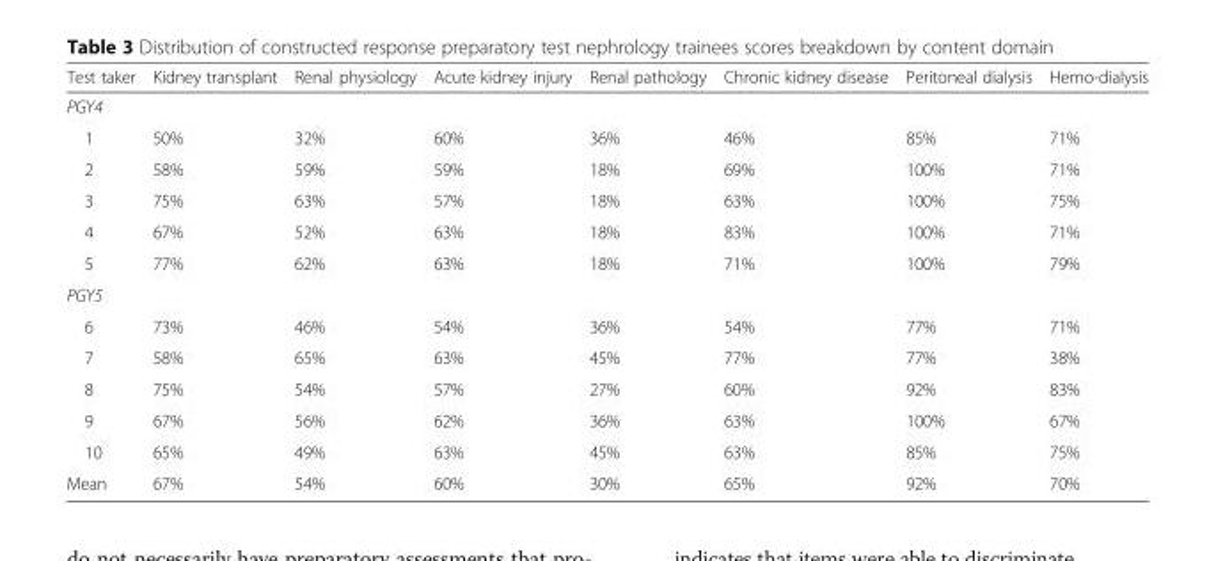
<table><thead><tr><td>Test taker</td><td>Kidney transplant</td><td>Renal physiology</td><td>Acute kidney injury</td><td>Renal pathology</td><td>Chronic kidney disease</td><td>Peritoneal dialysis</td><td>Hemo-dialysis</td></tr></thead><tbody><tr><td colspan="8">PGY4</td></tr><tr><td>1</td><td>50%</td><td>32%</td><td>60%</td><td>36%</td><td>46%</td><td>85%</td><td>71%</td></tr><tr><td>2</td><td>58%</td><td>59%</td><td>59%</td><td>18%</td><td>69%</td><td>100%</td><td>71%</td></tr><tr><td>3</td><td>75%</td><td>63%</td><td>57%</td><td>18%</td><td>63%</td><td>100%</td><td>75%</td></tr><tr><td>4</td><td>67%</td><td>52%</td><td>63%</td><td>18%</td><td>83%</td><td>100%</td><td>71%</td></tr><tr><td>5</td><td>77%</td><td>62%</td><td>63%</td><td>18%</td><td>71%</td><td>100%</td><td>79%</td></tr><tr><td colspan="8">PGY5</td></tr><tr><td>6</td><td>73%</td><td>46%</td><td>54%</td><td>36%</td><td>54%</td><td>77%</td><td>71%</td></tr><tr><td>7</td><td>58%</td><td>65%</td><td>63%</td><td>45%</td><td>77%</td><td>77%</td><td>38%</td></tr><tr><td>8</td><td>75%</td><td>54%</td><td>57%</td><td>27%</td><td>60%</td><td>92%</td><td>83%</td></tr><tr><td>9</td><td>67%</td><td>56%</td><td>62%</td><td>36%</td><td>63%</td><td>100%</td><td>67%</td></tr><tr><td>10</td><td>65%</td><td>49%</td><td>63%</td><td>45%</td><td>63%</td><td>85%</td><td>75%</td></tr><tr><td>Mean</td><td>67%</td><td>54%</td><td>60%</td><td>30%</td><td>65%</td><td>92%</td><td>70%</td></tr></tbody></table>